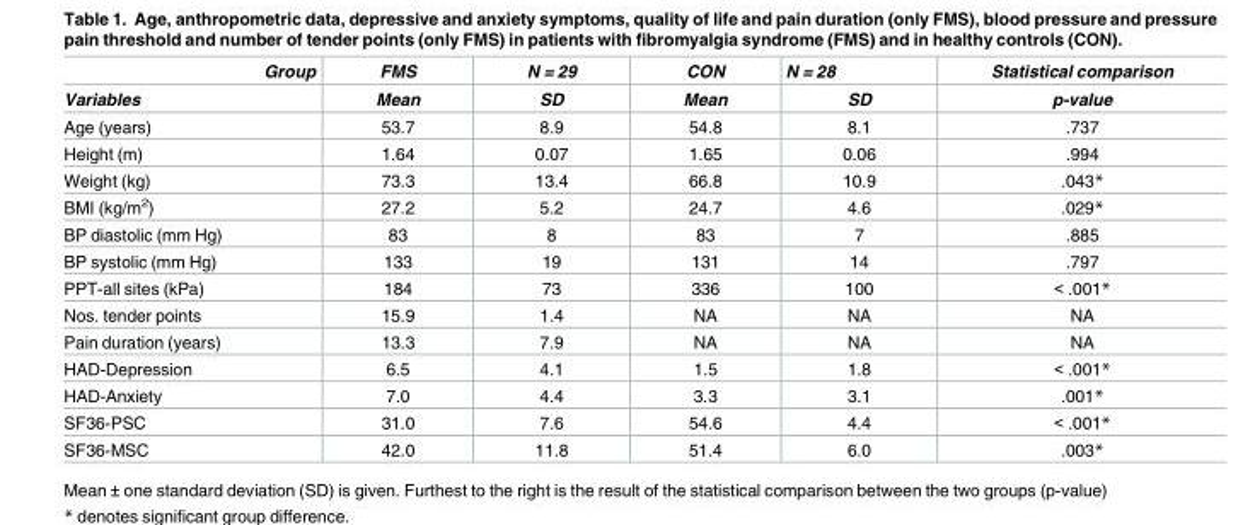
<table><thead><tr><td rowspan="2">Group Variables</td><td rowspan="2">FMS Mean</td><td rowspan="2">N = 29 SD</td><td rowspan="2">CON Mean</td><td rowspan="2">N = 28 SD</td><td rowspan="2">Statistical comparison p-value</td></tr><tr></tr></thead><tbody><tr><td>Age (years)</td><td>53.7</td><td>8.9</td><td>54.8</td><td>8.1</td><td>.737</td></tr><tr><td>Height (m)</td><td>1.64</td><td>0.07</td><td>1.65</td><td>0.06</td><td>.994</td></tr><tr><td>Weight (kg)</td><td>73.3</td><td>13.4</td><td>66.8</td><td>10.9</td><td>.043*</td></tr><tr><td>BMI (kg/m<sup>2</sup>)</td><td>27.2</td><td>5.2</td><td>24.7</td><td>4.6</td><td>.029*</td></tr><tr><td>BP diastolic (mm Hg)</td><td>83</td><td>8</td><td>83</td><td>7</td><td>.885</td></tr><tr><td>BP systolic (mm Hg)</td><td>133</td><td>19</td><td>131</td><td>14</td><td>.797</td></tr><tr><td>PPT-all sites (kPa)</td><td>184</td><td>73</td><td>336</td><td>100</td><td>&lt; .001*</td></tr><tr><td>Nos. tender points</td><td>15.9</td><td>1.4</td><td>NA</td><td>NA</td><td>NA</td></tr><tr><td>Pain duration (years)</td><td>13.3</td><td>7.9</td><td>NA</td><td>NA</td><td>NA</td></tr><tr><td>HAD-Depression</td><td>6.5</td><td>4.1</td><td>1.5</td><td>1.8</td><td>&lt; .001*</td></tr><tr><td>HAD-Anxiety</td><td>7.0</td><td>4.4</td><td>3.3</td><td>3.1</td><td>.001*</td></tr><tr><td>SF36-PSC</td><td>31.0</td><td>7.6</td><td>54.6</td><td>4.4</td><td>&lt; .001*</td></tr><tr><td>SF36-MSC</td><td>42.0</td><td>11.8</td><td>51.4</td><td>6.0</td><td>.003*</td></tr></tbody></table>